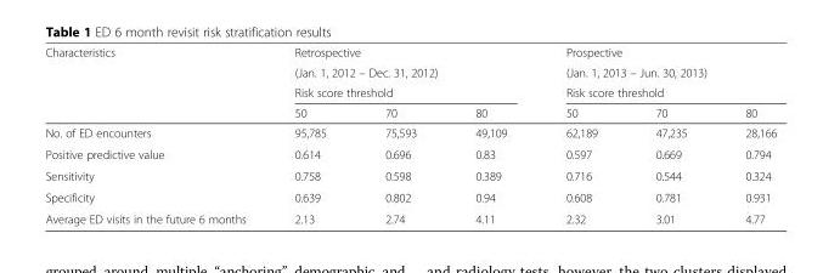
<table><thead><tr><td rowspan="4">Characteristics</td><td rowspan="3" colspan="3">Retrospective (Jan. 1, 2012 – Dec. 31, 2012) Risk score threshold</td><td rowspan="3" colspan="3">Prospective (Jan. 1, 2013 – Jun. 30, 2013) Risk score threshold</td></tr><tr></tr><tr></tr><tr><td>50</td><td>70</td><td>80</td><td>50</td><td>70</td><td>80</td></tr></thead><tbody><tr><td>No. of ED encounters</td><td>95,785</td><td>75,593</td><td>49,109</td><td>62,189</td><td>47,235</td><td>28,166</td></tr><tr><td>Positive predictive value</td><td>0.614</td><td>0.696</td><td>0.83</td><td>0.597</td><td>0.669</td><td>0.794</td></tr><tr><td>Sensitivity</td><td>0.758</td><td>0.598</td><td>0.389</td><td>0.716</td><td>0.544</td><td>0.324</td></tr><tr><td>Specificity</td><td>0.639</td><td>0.802</td><td>0.94</td><td>0.608</td><td>0.781</td><td>0.931</td></tr><tr><td>Average ED visits in the future 6 months</td><td>2.13</td><td>2.74</td><td>4.11</td><td>2.32</td><td>3.01</td><td>4.77</td></tr></tbody></table>